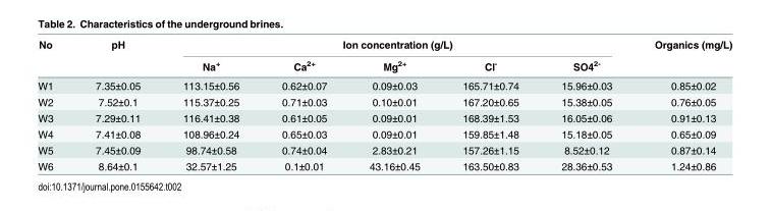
<table><thead><tr><td rowspan="2">No</td><td rowspan="2">pH</td><td colspan="5">Ion concentration (g/L)</td><td rowspan="2">Organics (mg/L)</td></tr><tr><td>Na<sup>+</sup></td><td>Ca<sup>2+</sup></td><td>Mg<sup>2+</sup></td><td>Cl<sup>-</sup></td><td>SO4<sup>2-</sup></td></tr></thead><tbody><tr><td>W1</td><td>7.35±0.05</td><td>113.15±0.56</td><td>0.62±0.07</td><td>0.09±0.03</td><td>165.71±0.74</td><td>15.96±0.03</td><td>0.85±0.02</td></tr><tr><td>W2</td><td>7.52±0.1</td><td>115.37±0.25</td><td>0.71±0.03</td><td>0.10±0.01</td><td>167.20±0.65</td><td>15.38±0.05</td><td>0.76±0.05</td></tr><tr><td>W3</td><td>7.29±0.11</td><td>116.41±0.38</td><td>0.61±0.05</td><td>0.09±0.01</td><td>168.39±1.53</td><td>16.05±0.06</td><td>0.91±0.13</td></tr><tr><td>W4</td><td>7.41±0.08</td><td>108.96±0.24</td><td>0.65±0.03</td><td>0.09±0.01</td><td>159.85±1.48</td><td>15.18±0.05</td><td>0.65±0.09</td></tr><tr><td>W5</td><td>7.45±0.09</td><td>98.74±0.58</td><td>0.74±0.04</td><td>2.83±0.21</td><td>157.26±1.15</td><td>8.52±0.12</td><td>0.87±0.14</td></tr><tr><td>W6</td><td>8.64±0.1</td><td>32.57±1.25</td><td>0.1±0.01</td><td>43.16±0.45</td><td>163.50±0.83</td><td>28.36±0.53</td><td>1.24±0.86</td></tr></tbody></table>